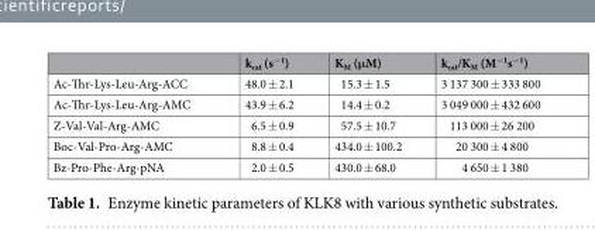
<table><thead><tr><td></td><td>k<sub>cat</sub> (s<sup>−1</sup>)</td><td>K<sub>M</sub> (μM)</td><td>k<sub>cat</sub>/K<sub>M</sub> (M<sup>−1</sup>s<sup>−1</sup>)</td></tr></thead><tbody><tr><td>Ac-Thr-Lys-Leu-Arg-ACC</td><td>48.0 ± 2.1</td><td>15.3 ± 1.5</td><td>3 137 300 ± 333 800</td></tr><tr><td>Ac-Thr-Lys-Leu-Arg-AMC</td><td>43.9 ± 6.2</td><td>14.4 ± 0.2</td><td>3 049 000 ± 432 600</td></tr><tr><td>Z-Val-Val-Arg-AMC</td><td>6.5 ± 0.9</td><td>57.5 ± 10.7</td><td>113 000 ± 26 200</td></tr><tr><td>Boc-Val-Pro-Arg-AMC</td><td>8.8 ± 0.4</td><td>434.0 ± 100.2</td><td>20 300 ± 4 800</td></tr><tr><td>Bz-Pro-Phe-Arg-pNA</td><td>2.0 ± 0.5</td><td>430.0 ± 68.0</td><td>4 650 ± 1 380</td></tr></tbody></table>